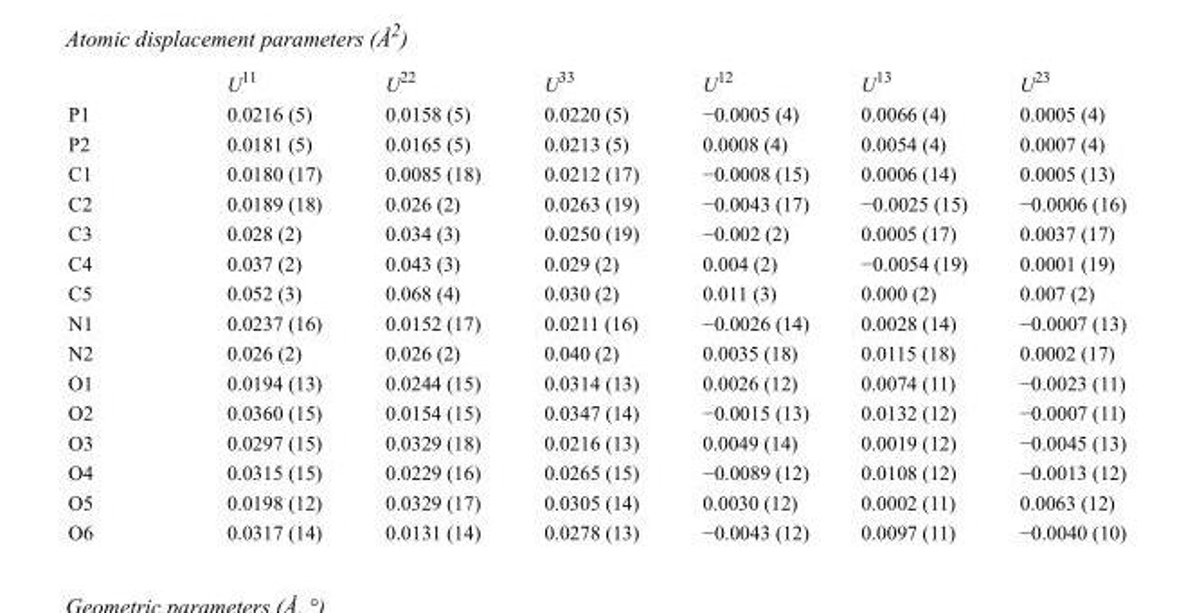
<table><thead><tr><td></td><td>U<sup>11</sup></td><td>U<sup>22</sup></td><td>U<sup>33</sup></td><td>U<sup>12</sup></td><td>U<sup>13</sup></td><td>U<sup>23</sup></td></tr></thead><tbody><tr><td>P1</td><td>0.0216 (5)</td><td>0.0158 (5)</td><td>0.0220 (5)</td><td>−0.0005 (4)</td><td>0.0066 (4)</td><td>0.0005 (4)</td></tr><tr><td>P2</td><td>0.0181 (5)</td><td>0.0165 (5)</td><td>0.0213 (5)</td><td>0.0008 (4)</td><td>0.0054 (4)</td><td>0.0007 (4)</td></tr><tr><td>C1</td><td>0.0180 (17)</td><td>0.0085 (18)</td><td>0.0212 (17)</td><td>−0.0008 (15)</td><td>0.0006 (14)</td><td>0.0005 (13)</td></tr><tr><td>C2</td><td>0.0189 (18)</td><td>0.026 (2)</td><td>0.0263 (19)</td><td>−0.0043 (17)</td><td>−0.0025 (15)</td><td>−0.0006 (16)</td></tr><tr><td>C3</td><td>0.028 (2)</td><td>0.034 (3)</td><td>0.0250 (19)</td><td>−0.002 (2)</td><td>0.0005 (17)</td><td>0.0037 (17)</td></tr><tr><td>C4</td><td>0.037 (2)</td><td>0.043 (3)</td><td>0.029 (2)</td><td>0.004 (2)</td><td>−0.0054 (19)</td><td>0.0001 (19)</td></tr><tr><td>C5</td><td>0.052 (3)</td><td>0.068 (4)</td><td>0.030 (2)</td><td>0.011 (3)</td><td>0.000 (2)</td><td>0.007 (2)</td></tr><tr><td>N1</td><td>0.0237 (16)</td><td>0.0152 (17)</td><td>0.0211 (16)</td><td>−0.0026 (14)</td><td>0.0028 (14)</td><td>−0.0007 (13)</td></tr><tr><td>N2</td><td>0.026 (2)</td><td>0.026 (2)</td><td>0.040 (2)</td><td>0.0035 (18)</td><td>0.0115 (18)</td><td>0.0002 (17)</td></tr><tr><td>O1</td><td>0.0194 (13)</td><td>0.0244 (15)</td><td>0.0314 (13)</td><td>0.0026 (12)</td><td>0.0074 (11)</td><td>−0.0023 (11)</td></tr><tr><td>O2</td><td>0.0360 (15)</td><td>0.0154 (15)</td><td>0.0347 (14)</td><td>−0.0015 (13)</td><td>0.0132 (12)</td><td>−0.0007 (11)</td></tr><tr><td>O3</td><td>0.0297 (15)</td><td>0.0329 (18)</td><td>0.0216 (13)</td><td>0.0049 (14)</td><td>0.0019 (12)</td><td>−0.0045 (13)</td></tr><tr><td>O4</td><td>0.0315 (15)</td><td>0.0229 (16)</td><td>0.0265 (15)</td><td>−0.0089 (12)</td><td>0.0108 (12)</td><td>−0.0013 (12)</td></tr><tr><td>O5</td><td>0.0198 (12)</td><td>0.0329 (17)</td><td>0.0305 (14)</td><td>0.0030 (12)</td><td>0.0002 (11)</td><td>0.0063 (12)</td></tr><tr><td>O6</td><td>0.0317 (14)</td><td>0.0131 (14)</td><td>0.0278 (13)</td><td>−0.0043 (12)</td><td>0.0097 (11)</td><td>−0.0040 (10)</td></tr></tbody></table>